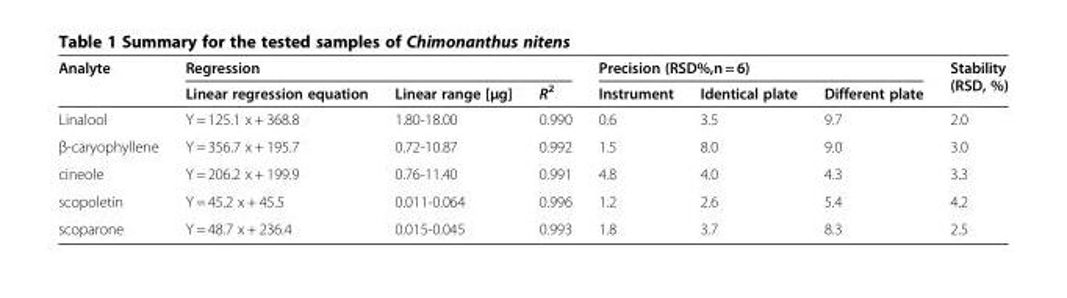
<table><thead><tr><td rowspan="2">Analyte</td><td colspan="3">Regression</td><td colspan="3">Precision (RSD%,n = 6)</td><td rowspan="2">Stability (RSD, %)</td></tr><tr><td>Linear regression equation</td><td>Linear range [μg]</td><td>R<sup>2</sup></td><td>Instrument</td><td>Identical plate</td><td>Different plate</td></tr></thead><tbody><tr><td>Linalool</td><td>Y = 125.1 x + 368.8</td><td>1.80-18.00</td><td>0.990</td><td>0.6</td><td>3.5</td><td>9.7</td><td>2.0</td></tr><tr><td>β-caryophyllene</td><td>Y = 356.7 x + 195.7</td><td>0.72-10.87</td><td>0.992</td><td>1.5</td><td>8.0</td><td>9.0</td><td>3.0</td></tr><tr><td>cineole</td><td>Y = 206.2 x + 199.9</td><td>0.76-11.40</td><td>0.991</td><td>4.8</td><td>4.0</td><td>4.3</td><td>3.3</td></tr><tr><td>scopoletin</td><td>Y = 45.2 x + 45.5</td><td>0.011-0.064</td><td>0.996</td><td>1.2</td><td>2.6</td><td>5.4</td><td>4.2</td></tr><tr><td>scoparone</td><td>Y = 48.7 x + 236.4</td><td>0.015-0.045</td><td>0.993</td><td>1.8</td><td>3.7</td><td>8.3</td><td>2.5</td></tr></tbody></table>